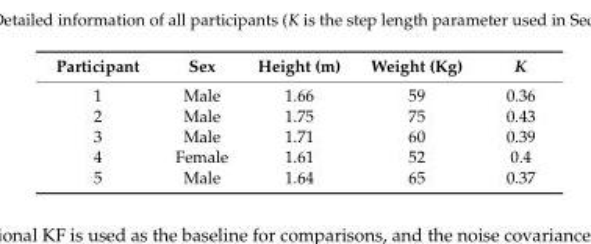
<table><thead><tr><td>Participant</td><td>Sex</td><td>Height (m)</td><td>Weight (Kg)</td><td>K</td></tr></thead><tbody><tr><td>1</td><td>Male</td><td>1.66</td><td>59</td><td>0.36</td></tr><tr><td>2</td><td>Male</td><td>1.75</td><td>75</td><td>0.43</td></tr><tr><td>3</td><td>Male</td><td>1.71</td><td>60</td><td>0.39</td></tr><tr><td>4</td><td>Female</td><td>1.61</td><td>52</td><td>0.4</td></tr><tr><td>5</td><td>Male</td><td>1.64</td><td>65</td><td>0.37</td></tr></tbody></table>